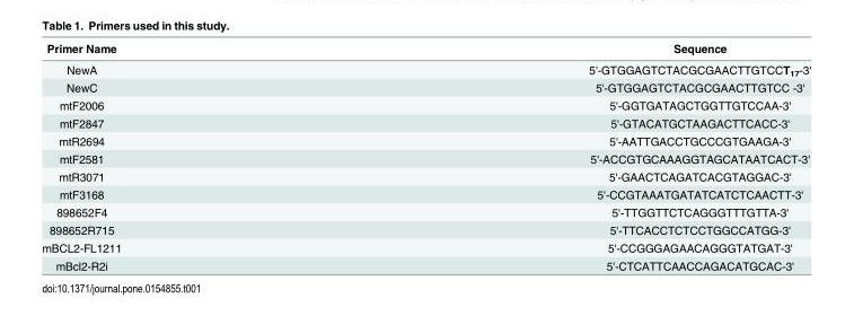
<table><thead><tr><td>Primer Name</td><td>Sequence</td></tr></thead><tbody><tr><td>NewA</td><td>5&#x27;-GTGGAGTCTACGCGAACTTGTCCT<sub>17</sub>-3&#x27;</td></tr><tr><td>NewC</td><td>5&#x27;-GTGGAGTCTACGCGAACTTGTCC -3&#x27;</td></tr><tr><td>mtF2006</td><td>5&#x27;-GGTGATAGCTGGTTGTCCAA-3&#x27;</td></tr><tr><td>mtF2847</td><td>5&#x27;-GTACATGCTAAGACTTCACC-3&#x27;</td></tr><tr><td>mtR2694</td><td>5&#x27;-AATTGACCTGCCCGTGAAGA-3&#x27;</td></tr><tr><td>mtF2581</td><td>5&#x27;-ACCGTGCAAAGGTAGCATAATCACT-3&#x27;</td></tr><tr><td>mtR3071</td><td>5&#x27;-GAACTCAGATCACGTAGGAC-3&#x27;</td></tr><tr><td>mtF3168</td><td>5&#x27;-CCGTAAATGATATCATCTCAACTT-3&#x27;</td></tr><tr><td>898652F4</td><td>5&#x27;-TTGGTTCTCAGGGTTTGTTA-3&#x27;</td></tr><tr><td>898652R715</td><td>5&#x27;-TTCACCTCTCCTGGCCATGG-3&#x27;</td></tr><tr><td>mBCL2-FL1211</td><td>5&#x27;-CCGGGAGAACAGGGTATGAT-3&#x27;</td></tr><tr><td>mBcl2-R2i</td><td>5&#x27;-CTCATTCAACCAGACATGCAC-3&#x27;</td></tr></tbody></table>